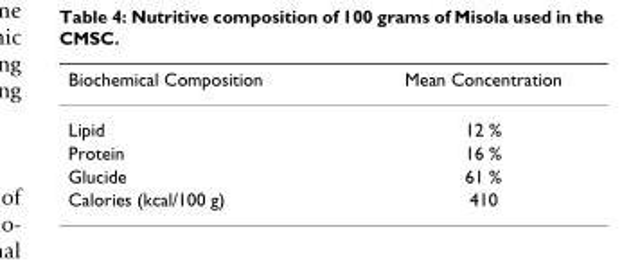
<table><thead><tr><td>Biochemical Composition</td><td>Mean Concentration</td></tr></thead><tbody><tr><td>Lipid</td><td>12 %</td></tr><tr><td>Protein</td><td>16 %</td></tr><tr><td>Glucide</td><td>61 %</td></tr><tr><td>Calories (kcal/100 g)</td><td>410</td></tr></tbody></table>